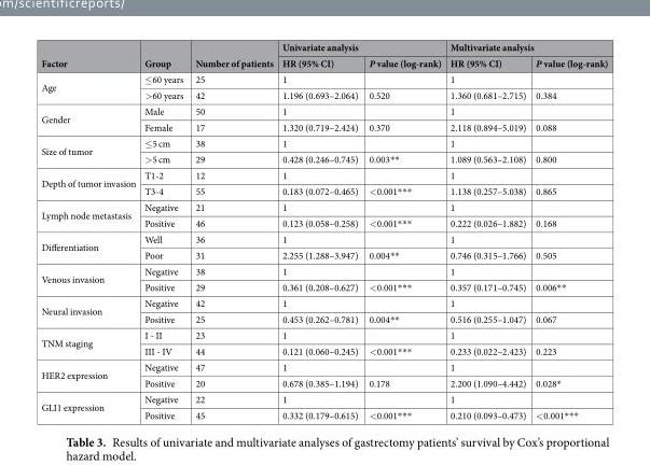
<table><thead><tr><td rowspan="2">Factor</td><td rowspan="2">Group</td><td rowspan="2">Number of patients</td><td colspan="2">Univariate analysis</td><td colspan="2">Multivariate analysis</td></tr><tr><td>HR (95% CI)</td><td>P value (log-rank)</td><td>HR (95% CI)</td><td>P value (log-rank)</td></tr></thead><tbody><tr><td rowspan="2">Age</td><td>≤60 years</td><td>25</td><td>1</td><td></td><td>1</td><td></td></tr><tr><td>&gt;60 years</td><td>42</td><td>1.196 (0.693–2.064)</td><td>0.520</td><td>1.360 (0.681–2.715)</td><td>0.384</td></tr><tr><td rowspan="2">Gender</td><td>Male</td><td>50</td><td>1</td><td></td><td>1</td><td></td></tr><tr><td>Female</td><td>17</td><td>1.320 (0.719–2.424)</td><td>0.370</td><td>2.118 (0.894–5.019)</td><td>0.088</td></tr><tr><td rowspan="2">Size of tumor</td><td>≤5 cm</td><td>38</td><td>1</td><td></td><td>1</td><td></td></tr><tr><td>&gt;5 cm</td><td>29</td><td>0.428 (0.246–0.745)</td><td>0.003**</td><td>1.089 (0.563–2.108)</td><td>0.800</td></tr><tr><td rowspan="2">Depth of tumor invasion</td><td>T1-2</td><td>12</td><td>1</td><td></td><td>1</td><td></td></tr><tr><td>T3-4</td><td>55</td><td>0.183 (0.072–0.465)</td><td>&lt;0.001***</td><td>1.138 (0.257–5.038)</td><td>0.865</td></tr><tr><td rowspan="2">Lymph node metastasis</td><td>Negative</td><td>21</td><td>1</td><td></td><td>1</td><td></td></tr><tr><td>Positive</td><td>46</td><td>0.123 (0.058–0.258)</td><td>&lt;0.001***</td><td>0.222 (0.026–1.882)</td><td>0.168</td></tr><tr><td rowspan="2">Differentiation</td><td>Well</td><td>36</td><td>1</td><td></td><td>1</td><td></td></tr><tr><td>Poor</td><td>31</td><td>2.255 (1.288–3.947)</td><td>0.004**</td><td>0.746 (0.315–1.766)</td><td>0.505</td></tr><tr><td rowspan="2">Venous invasion</td><td>Negative</td><td>38</td><td>1</td><td></td><td>1</td><td></td></tr><tr><td>Positive</td><td>29</td><td>0.361 (0.208–0.627)</td><td>&lt;0.001***</td><td>0.357 (0.171–0.745)</td><td>0.006**</td></tr><tr><td rowspan="2">Neural invasion</td><td>Negative</td><td>42</td><td>1</td><td></td><td>1</td><td></td></tr><tr><td>Positive</td><td>25</td><td>0.453 (0.262–0.781)</td><td>0.004**</td><td>0.516 (0.255–1.047)</td><td>0.067</td></tr><tr><td rowspan="2">TNM staging</td><td>I - II</td><td>23</td><td>1</td><td></td><td>1</td><td></td></tr><tr><td>III - IV</td><td>44</td><td>0.121 (0.060–0.245)</td><td>&lt;0.001***</td><td>0.233 (0.022–2.423)</td><td>0.223</td></tr><tr><td rowspan="2">HER2 expression</td><td>Negative</td><td>47</td><td>1</td><td></td><td>1</td><td></td></tr><tr><td>Positive</td><td>20</td><td>0.678 (0.385–1.194)</td><td>0.178</td><td>2.200 (1.090–4.442)</td><td>0.028*</td></tr><tr><td rowspan="2">GLI1 expression</td><td>Negative</td><td>22</td><td>1</td><td></td><td>1</td><td></td></tr><tr><td>Positive</td><td>45</td><td>0.332 (0.179–0.615)</td><td>&lt;0.001***</td><td>0.210 (0.093–0.473)</td><td>&lt;0.001***</td></tr></tbody></table>